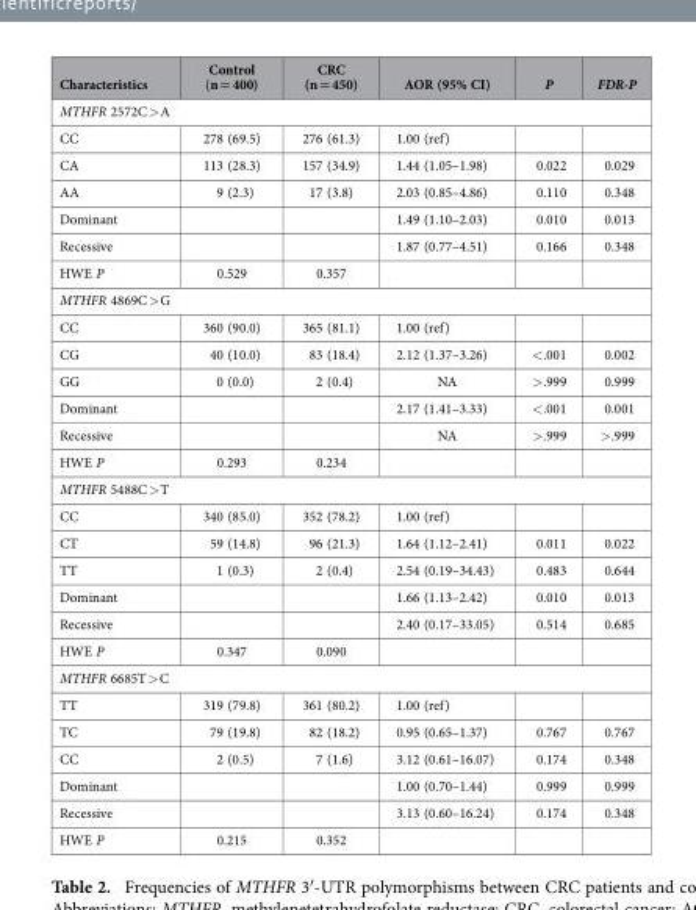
<table><thead><tr><td>Characteristics</td><td>Control (n = 400)</td><td>CRC (n = 450)</td><td>AOR (95% CI)</td><td>P</td><td>FDR-P</td></tr></thead><tbody><tr><td colspan="6">MTHFR 2572C &gt; A</td></tr><tr><td>CC</td><td>278 (69.5)</td><td>276 (61.3)</td><td>1.00 (ref)</td><td></td><td></td></tr><tr><td>CA</td><td>113 (28.3)</td><td>157 (34.9)</td><td>1.44 (1.05–1.98)</td><td>0.022</td><td>0.029</td></tr><tr><td>AA</td><td>9 (2.3)</td><td>17 (3.8)</td><td>2.03 (0.85–4.86)</td><td>0.110</td><td>0.348</td></tr><tr><td>Dominant</td><td></td><td></td><td>1.49 (1.10–2.03)</td><td>0.010</td><td>0.013</td></tr><tr><td>Recessive</td><td></td><td></td><td>1.87 (0.77–4.51)</td><td>0.166</td><td>0.348</td></tr><tr><td>HWE P</td><td>0.529</td><td>0.357</td><td></td><td></td><td></td></tr><tr><td colspan="6">MTHFR 4869C &gt; G</td></tr><tr><td>CC</td><td>360 (90.0)</td><td>365 (81.1)</td><td>1.00 (ref)</td><td></td><td></td></tr><tr><td>CG</td><td>40 (10.0)</td><td>83 (18.4)</td><td>2.12 (1.37–3.26)</td><td>&lt;.001</td><td>0.002</td></tr><tr><td>GG</td><td>0 (0.0)</td><td>2 (0.4)</td><td>NA</td><td>&gt;.999</td><td>0.999</td></tr><tr><td>Dominant</td><td></td><td></td><td>2.17 (1.41–3.33)</td><td>&lt;.001</td><td>0.001</td></tr><tr><td>Recessive</td><td></td><td></td><td>NA</td><td>&gt;.999</td><td>&gt;.999</td></tr><tr><td>HWE P</td><td>0.293</td><td>0.234</td><td></td><td></td><td></td></tr><tr><td colspan="6">MTHFR 5488C &gt; T</td></tr><tr><td>CC</td><td>340 (85.0)</td><td>352 (78.2)</td><td>1.00 (ref)</td><td></td><td></td></tr><tr><td>CT</td><td>59 (14.8)</td><td>96 (21.3)</td><td>1.64 (1.12–2.41)</td><td>0.011</td><td>0.022</td></tr><tr><td>TT</td><td>1 (0.3)</td><td>2 (0.4)</td><td>2.54 (0.19–34.43)</td><td>0.483</td><td>0.644</td></tr><tr><td>Dominant</td><td></td><td></td><td>1.66 (1.13–2.42)</td><td>0.010</td><td>0.013</td></tr><tr><td>Recessive</td><td></td><td></td><td>2.40 (0.17–33.05)</td><td>0.514</td><td>0.685</td></tr><tr><td>HWE P</td><td>0.347</td><td>0.090</td><td></td><td></td><td></td></tr><tr><td colspan="6">MTHFR 6685T &gt; C</td></tr><tr><td>TT</td><td>319 (79.8)</td><td>361 (80.2)</td><td>1.00 (ref)</td><td></td><td></td></tr><tr><td>TC</td><td>79 (19.8)</td><td>82 (18.2)</td><td>0.95 (0.65–1.37)</td><td>0.767</td><td>0.767</td></tr><tr><td>CC</td><td>2 (0.5)</td><td>7 (1.6)</td><td>3.12 (0.61–16.07)</td><td>0.174</td><td>0.348</td></tr><tr><td>Dominant</td><td></td><td></td><td>1.00 (0.70–1.44)</td><td>0.999</td><td>0.999</td></tr><tr><td>Recessive</td><td></td><td></td><td>3.13 (0.60–16.24)</td><td>0.174</td><td>0.348</td></tr><tr><td>HWE P</td><td>0.215</td><td>0.352</td><td></td><td></td><td></td></tr></tbody></table>